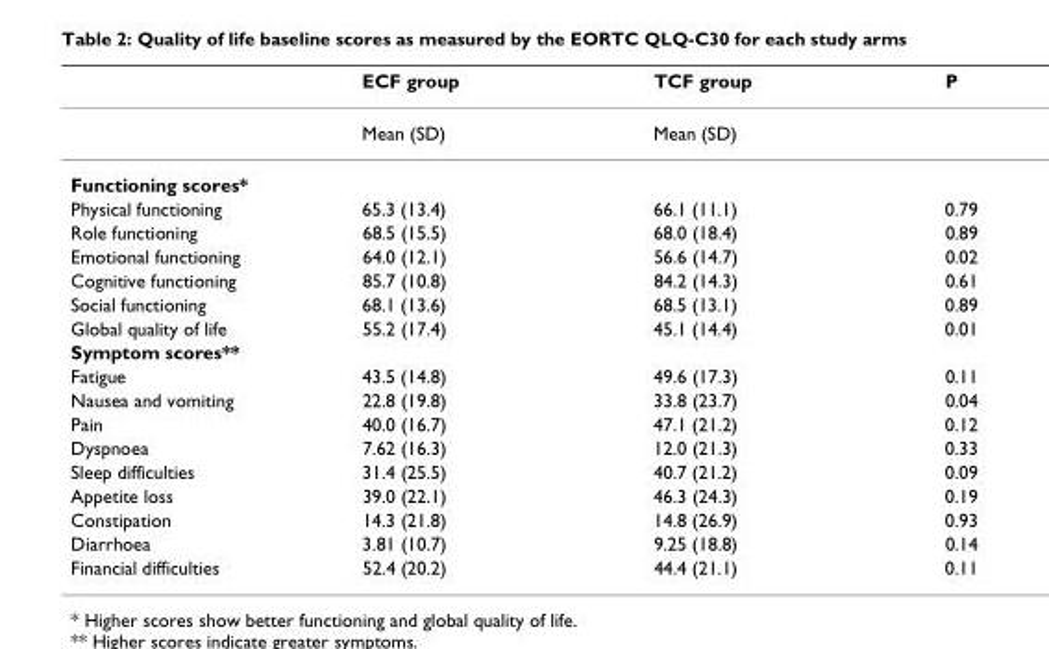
<table><thead><tr><td></td><td>ECF group</td><td>TCF group</td><td>P</td></tr></thead><tbody><tr><td></td><td>Mean (SD)</td><td>Mean (SD)</td><td></td></tr><tr><td colspan="4">Functioning scores*</td></tr><tr><td>Physical functioning</td><td>65.3 (13.4)</td><td>66.1 (11.1)</td><td>0.79</td></tr><tr><td>Role functioning</td><td>68.5 (15.5)</td><td>68.0 (18.4)</td><td>0.89</td></tr><tr><td>Emotional functioning</td><td>64.0 (12.1)</td><td>56.6 (14.7)</td><td>0.02</td></tr><tr><td>Cognitive functioning</td><td>85.7 (10.8)</td><td>84.2 (14.3)</td><td>0.61</td></tr><tr><td>Social functioning</td><td>68.1 (13.6)</td><td>68.5 (13.1)</td><td>0.89</td></tr><tr><td>Global quality of life</td><td>55.2 (17.4)</td><td>45.1 (14.4)</td><td>0.01</td></tr><tr><td colspan="4">Symptom scores**</td></tr><tr><td>Fatigue</td><td>43.5 (14.8)</td><td>49.6 (17.3)</td><td>0.11</td></tr><tr><td>Nausea and vomiting</td><td>22.8 (19.8)</td><td>33.8 (23.7)</td><td>0.04</td></tr><tr><td>Pain</td><td>40.0 (16.7)</td><td>47.1 (21.2)</td><td>0.12</td></tr><tr><td>Dyspnoea</td><td>7.62 (16.3)</td><td>12.0 (21.3)</td><td>0.33</td></tr><tr><td>Sleep difficulties</td><td>31.4 (25.5)</td><td>40.7 (21.2)</td><td>0.09</td></tr><tr><td>Appetite loss</td><td>39.0 (22.1)</td><td>46.3 (24.3)</td><td>0.19</td></tr><tr><td>Constipation</td><td>14.3 (21.8)</td><td>14.8 (26.9)</td><td>0.93</td></tr><tr><td>Diarrhoea</td><td>3.81 (10.7)</td><td>9.25 (18.8)</td><td>0.14</td></tr><tr><td>Financial difficulties</td><td>52.4 (20.2)</td><td>44.4 (21.1)</td><td>0.11</td></tr></tbody></table>